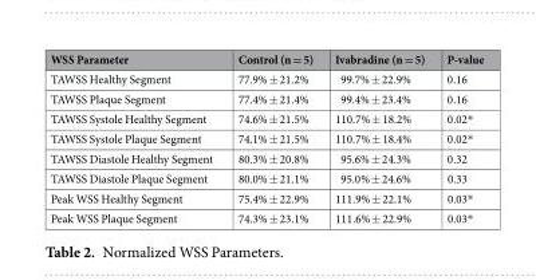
<table><thead><tr><td>WSS Parameter</td><td>Control (n = 5)</td><td>Ivabradine (n = 5)</td><td>P-value</td></tr></thead><tbody><tr><td>TAWSS Healthy Segment</td><td>77.9% ± 21.2%</td><td>99.7% ± 22.9%</td><td>0.16</td></tr><tr><td>TAWSS Plaque Segment</td><td>77.4% ± 21.4%</td><td>99.4% ± 23.4%</td><td>0.16</td></tr><tr><td>TAWSS Systole Healthy Segment</td><td>74.6% ± 21.5%</td><td>110.7% ± 18.2%</td><td>0.02*</td></tr><tr><td>TAWSS Systole Plaque Segment</td><td>74.1% ± 21.5%</td><td>110.7% ± 18.4%</td><td>0.02*</td></tr><tr><td>TAWSS Diastole Healthy Segment</td><td>80.3% ± 20.8%</td><td>95.6% ± 24.3%</td><td>0.32</td></tr><tr><td>TAWSS Diastole Plaque Segment</td><td>80.0% ± 21.1%</td><td>95.0% ± 24.6%</td><td>0.33</td></tr><tr><td>Peak WSS Healthy Segment</td><td>75.4% ± 22.9%</td><td>111.9% ± 22.1%</td><td>0.03*</td></tr><tr><td>Peak WSS Plaque Segment</td><td>74.3% ± 23.1%</td><td>111.6% ± 22.9%</td><td>0.03*</td></tr></tbody></table>